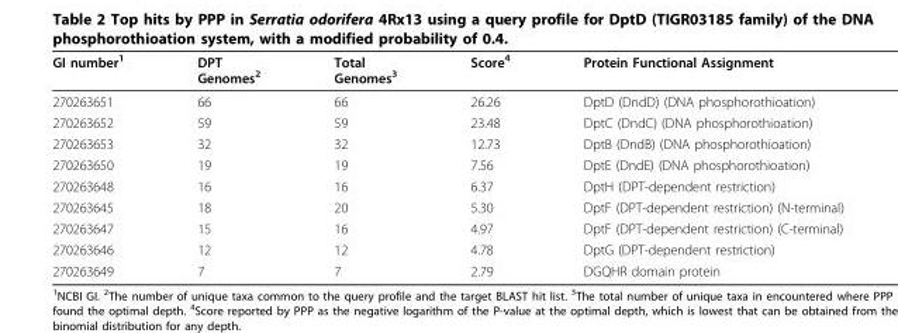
<table><thead><tr><td>GI number<sup>1</sup></td><td>DPT Genomes<sup>2</sup></td><td>Total Genomes<sup>3</sup></td><td>Score<sup>4</sup></td><td>Protein Functional Assignment</td></tr></thead><tbody><tr><td>270263651</td><td>66</td><td>66</td><td>26.26</td><td>DptD (DndD) (DNA phosphorothioation)</td></tr><tr><td>270263652</td><td>59</td><td>59</td><td>23.48</td><td>DptC (DndC) (DNA phosphorothioation)</td></tr><tr><td>270263653</td><td>32</td><td>32</td><td>12.73</td><td>DptB (DndB) (DNA phosphorothioation)</td></tr><tr><td>270263650</td><td>19</td><td>19</td><td>7.56</td><td>DptE (DndE) (DNA phosphorothioation)</td></tr><tr><td>270263648</td><td>16</td><td>16</td><td>6.37</td><td>DptH (DPT-dependent restriction)</td></tr><tr><td>270263645</td><td>18</td><td>20</td><td>5.30</td><td>DptF (DPT-dependent restriction) (N-terminal)</td></tr><tr><td>270263647</td><td>15</td><td>16</td><td>4.97</td><td>DptF (DPT-dependent restriction) (C-terminal)</td></tr><tr><td>270263646</td><td>12</td><td>12</td><td>4.78</td><td>DptG (DPT-dependent restriction)</td></tr><tr><td>270263649</td><td>7</td><td>7</td><td>2.79</td><td>DGQHR domain protein</td></tr></tbody></table>